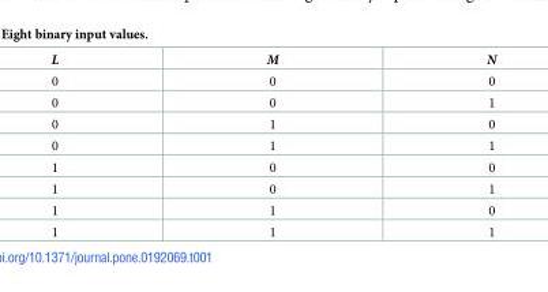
<table><thead><tr><td>L</td><td>M</td><td>N</td></tr></thead><tbody><tr><td>0</td><td>0</td><td>0</td></tr><tr><td>0</td><td>0</td><td>1</td></tr><tr><td>0</td><td>1</td><td>0</td></tr><tr><td>0</td><td>1</td><td>1</td></tr><tr><td>1</td><td>0</td><td>0</td></tr><tr><td>1</td><td>0</td><td>1</td></tr><tr><td>1</td><td>1</td><td>0</td></tr><tr><td>1</td><td>1</td><td>1</td></tr></tbody></table>